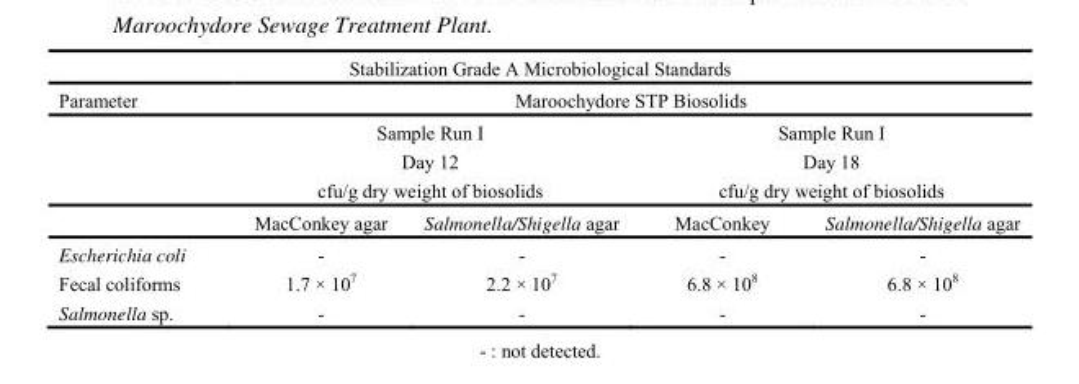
<table><thead><tr><td colspan="5">Stabilization Grade A Microbiological Standards</td></tr><tr><td rowspan="3">Parameter</td><td colspan="4">Maroochydore STP Biosolids</td></tr><tr><td colspan="2">Sample Run I Day 12 cfu/g dry weight of biosolids</td><td colspan="2">Sample Run I Day 18 cfu/g dry weight of biosolids</td></tr><tr><td>MacConkey agar</td><td>Salmonella/Shigella agar</td><td>MacConkey</td><td>Salmonella/Shigella agar</td></tr></thead><tbody><tr><td>Escherichia coli</td><td>-</td><td>-</td><td>-</td><td>-</td></tr><tr><td>Fecal coliforms</td><td>1.7 × 10<sup>7</sup></td><td>2.2 × 10<sup>7</sup></td><td>6.8 × 10<sup>8</sup></td><td>6.8 × 10<sup>8</sup></td></tr><tr><td>Salmonella sp.</td><td>-</td><td>-</td><td>-</td><td>-</td></tr></tbody></table>